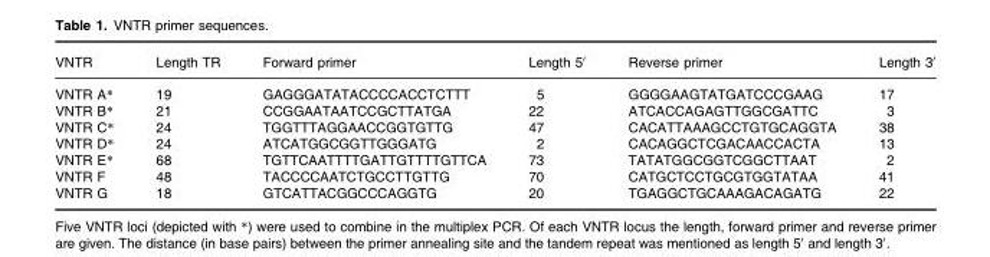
<table><thead><tr><td>VNTR</td><td>Length TR</td><td>Forward primer</td><td>Length 5′</td><td>Reverse primer</td><td>Length 3′</td></tr></thead><tbody><tr><td>VNTR A*</td><td>19</td><td>GAGGGATATACCCCACCTCTTT</td><td>5</td><td>GGGGAAGTATGATCCCGAAG</td><td>17</td></tr><tr><td>VNTR B*</td><td>21</td><td>CCGGAATAATCCGCTTATGA</td><td>22</td><td>ATCACCAGAGTTGGCGATTC</td><td>3</td></tr><tr><td>VNTR C*</td><td>24</td><td>TGGTTTAGGAACCGGTGTTG</td><td>47</td><td>CACATTAAAGCCTGTGCAGGTA</td><td>38</td></tr><tr><td>VNTR D*</td><td>24</td><td>ATCATGGCGGTTGGGATG</td><td>2</td><td>CACAGGCTCGACAACCACTA</td><td>13</td></tr><tr><td>VNTR E*</td><td>68</td><td>TGTTCAATTTTGATTGTTTTGTTCA</td><td>73</td><td>TATATGGCGGTCGGCTTAAT</td><td>2</td></tr><tr><td>VNTR F</td><td>48</td><td>TACCCCAATCTGCCTTGTTG</td><td>70</td><td>CATGCTCCTGCGTGGTATAA</td><td>41</td></tr><tr><td>VNTR G</td><td>18</td><td>GTCATTACGGCCCAGGTG</td><td>20</td><td>TGAGGCTGCAAAGACAGATG</td><td>22</td></tr></tbody></table>